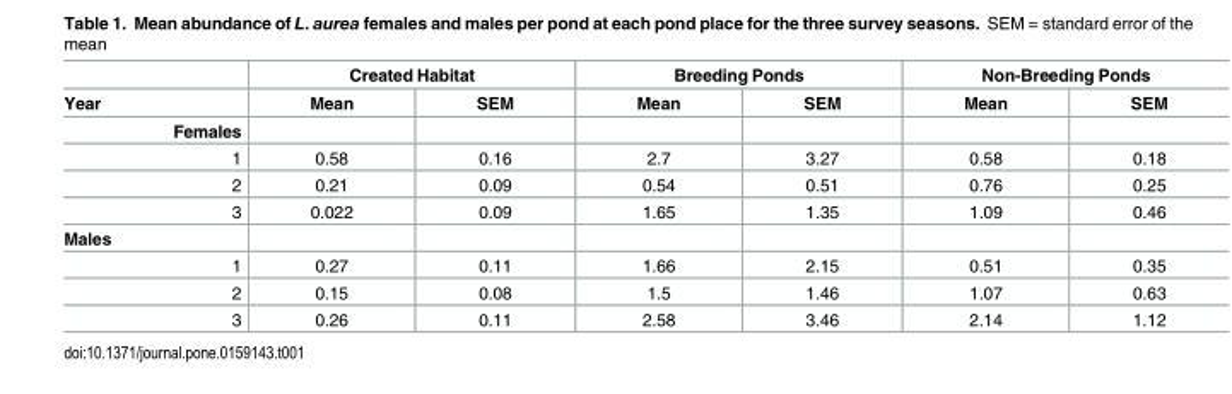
<table><thead><tr><td rowspan="2">Year</td><td colspan="2">Created Habitat</td><td colspan="2">Breeding Ponds</td><td colspan="2">Non-Breeding Ponds</td></tr><tr><td>Mean</td><td>SEM</td><td>Mean</td><td>SEM</td><td>Mean</td><td>SEM</td></tr></thead><tbody><tr><td colspan="7">Females</td></tr><tr><td>1</td><td>0.58</td><td>0.16</td><td>2.7</td><td>3.27</td><td>0.58</td><td>0.18</td></tr><tr><td>2</td><td>0.21</td><td>0.09</td><td>0.54</td><td>0.51</td><td>0.76</td><td>0.25</td></tr><tr><td>3</td><td>0.022</td><td>0.09</td><td>1.65</td><td>1.35</td><td>1.09</td><td>0.46</td></tr><tr><td colspan="7">Males</td></tr><tr><td>1</td><td>0.27</td><td>0.11</td><td>1.66</td><td>2.15</td><td>0.51</td><td>0.35</td></tr><tr><td>2</td><td>0.15</td><td>0.08</td><td>1.5</td><td>1.46</td><td>1.07</td><td>0.63</td></tr><tr><td>3</td><td>0.26</td><td>0.11</td><td>2.58</td><td>3.46</td><td>2.14</td><td>1.12</td></tr></tbody></table>